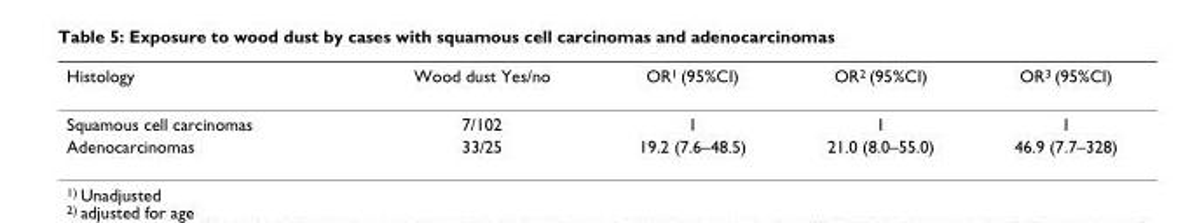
<table><thead><tr><td>Histology</td><td>Wood dust Yes/no</td><td>OR<sup>1</sup> (95%CI)</td><td>OR<sup>2</sup> (95%CI)</td><td>OR<sup>3</sup> (95%CI)</td></tr></thead><tbody><tr><td>Squamous cell carcinomas</td><td>7/102</td><td>1</td><td>1</td><td>1</td></tr><tr><td>Adenocarcinomas</td><td>33/25</td><td>19.2 (7.6–48.5)</td><td>21.0 (8.0–55.0)</td><td>46.9 (7.7–328)</td></tr></tbody></table>